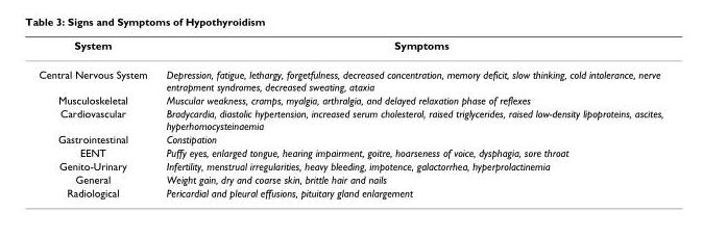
<table><thead><tr><td>System</td><td>Symptoms</td></tr></thead><tbody><tr><td>Central Nervous System</td><td>Depression, fatigue, lethargy, forgetfulness, decreased concentration, memory deficit, slow thinking, cold intolerance, nerve entrapment syndromes, decreased sweating, ataxia</td></tr><tr><td>Musculoskeletal</td><td>Muscular weakness, cramps, myalgia, arthralgia, and delayed relaxation phase of reflexes</td></tr><tr><td>Cardiovascular</td><td>Bradycardia, diastolic hypertension, increased serum cholesterol, raised triglycerides, raised low-density lipoproteins, ascites, hyperhomocysteinaemia</td></tr><tr><td>Gastrointestinal</td><td>Constipation</td></tr><tr><td>EENT</td><td>Puffy eyes, enlarged tongue, hearing impairment, goitre, hoarseness of voice, dysphagia, sore throat</td></tr><tr><td>Genito-Urinary</td><td>Infertility, menstrual irregularities, heavy bleeding, impotence, galactorrhea, hyperprolactinemia</td></tr><tr><td>General</td><td>Weight gain, dry and coarse skin, brittle hair and nails</td></tr><tr><td>Radiological</td><td>Pericardial and pleural effusions, pituitary gland enlargement</td></tr></tbody></table>